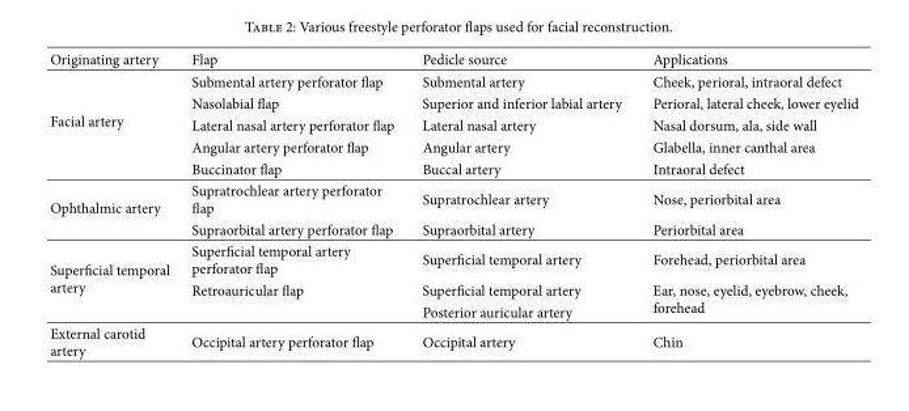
<table><thead><tr><td>Originating artery</td><td>Flap</td><td>Pedicle source</td><td>Applications</td></tr></thead><tbody><tr><td rowspan="5">Facial artery</td><td>Submental artery perforator flap</td><td>Submental artery</td><td>Cheek, perioral, intraoral defect</td></tr><tr><td>Nasolabial flap</td><td>Superior and inferior labial artery</td><td>Perioral, lateral cheek, lower eyelid</td></tr><tr><td>Lateral nasal artery perforator flap</td><td>Lateral nasal artery</td><td>Nasal dorsum, ala, side wall</td></tr><tr><td>Angular artery perforator flap</td><td>Angular artery</td><td>Glabella, inner canthal area</td></tr><tr><td>Buccinator flap</td><td>Buccal artery</td><td>Intraoral defect</td></tr><tr><td rowspan="2">Ophthalmic artery</td><td>Supratrochlear artery perforator flap</td><td>Supratrochlear artery</td><td>Nose, periorbital area</td></tr><tr><td>Supraorbital artery perforator flap</td><td>Supraorbital artery</td><td>Periorbital area</td></tr><tr><td rowspan="3">Superficial temporal artery</td><td>Superficial temporal artery perforator flap</td><td>Superficial temporal artery</td><td>Forehead, periorbital area</td></tr><tr><td>Retroauricular flap</td><td>Superficial temporal artery</td><td rowspan="2">Ear, nose, eyelid, eyebrow, cheek, forehead</td></tr><tr><td></td><td>Posterior auricular artery</td></tr><tr><td>External carotid artery</td><td>Occipital artery perforator flap</td><td>Occipital artery</td><td>Chin</td></tr></tbody></table>